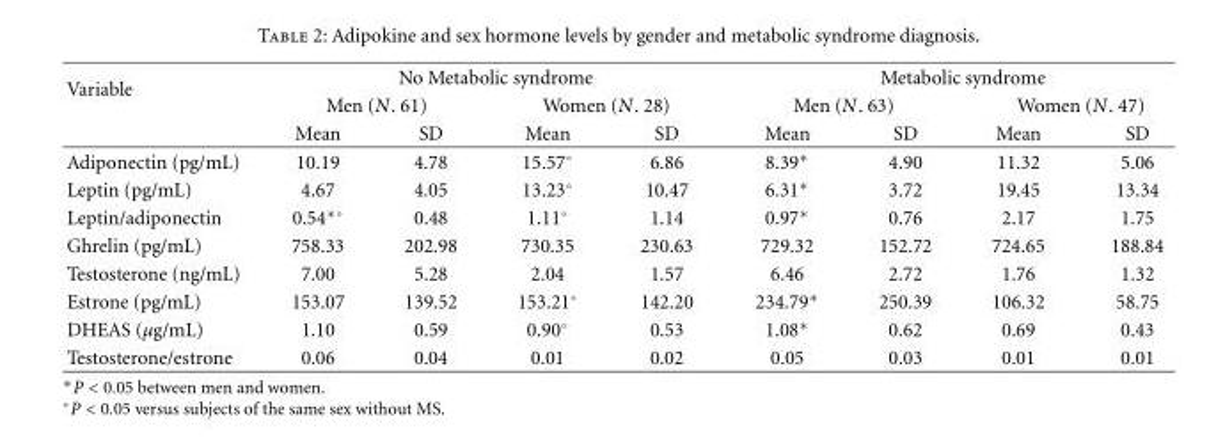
<table><thead><tr><td rowspan="3">Variable</td><td colspan="4">No Metabolic syndrome</td><td colspan="4">Metabolic syndrome</td></tr><tr><td colspan="2">Men (N. 61)</td><td colspan="2">Women (N. 28)</td><td colspan="2">Men (N. 63)</td><td colspan="2">Women (N. 47)</td></tr><tr><td>Mean</td><td>SD</td><td>Mean</td><td>SD</td><td>Mean</td><td>SD</td><td>Mean</td><td>SD</td></tr></thead><tbody><tr><td>Adiponectin (pg/mL)</td><td>10.19</td><td>4.78</td><td>15.57◦</td><td>6.86</td><td>8.39∗</td><td>4.90</td><td>11.32</td><td>5.06</td></tr><tr><td>Leptin (pg/mL)</td><td>4.67</td><td>4.05</td><td>13.23◦</td><td>10.47</td><td>6.31∗</td><td>3.72</td><td>19.45</td><td>13.34</td></tr><tr><td>Leptin/adiponectin</td><td>0.54∗◦</td><td>0.48</td><td>1.11◦</td><td>1.14</td><td>0.97∗</td><td>0.76</td><td>2.17</td><td>1.75</td></tr><tr><td>Ghrelin (pg/mL)</td><td>758.33</td><td>202.98</td><td>730.35</td><td>230.63</td><td>729.32</td><td>152.72</td><td>724.65</td><td>188.84</td></tr><tr><td>Testosterone (ng/mL)</td><td>7.00</td><td>5.28</td><td>2.04</td><td>1.57</td><td>6.46</td><td>2.72</td><td>1.76</td><td>1.32</td></tr><tr><td>Estrone (pg/mL)</td><td>153.07</td><td>139.52</td><td>153.21◦</td><td>142.20</td><td>234.79∗</td><td>250.39</td><td>106.32</td><td>58.75</td></tr><tr><td>DHEAS (µg/mL)</td><td>1.10</td><td>0.59</td><td>0.90◦</td><td>0.53</td><td>1.08∗</td><td>0.62</td><td>0.69</td><td>0.43</td></tr><tr><td>Testosterone/estrone</td><td>0.06</td><td>0.04</td><td>0.01</td><td>0.02</td><td>0.05</td><td>0.03</td><td>0.01</td><td>0.01</td></tr></tbody></table>